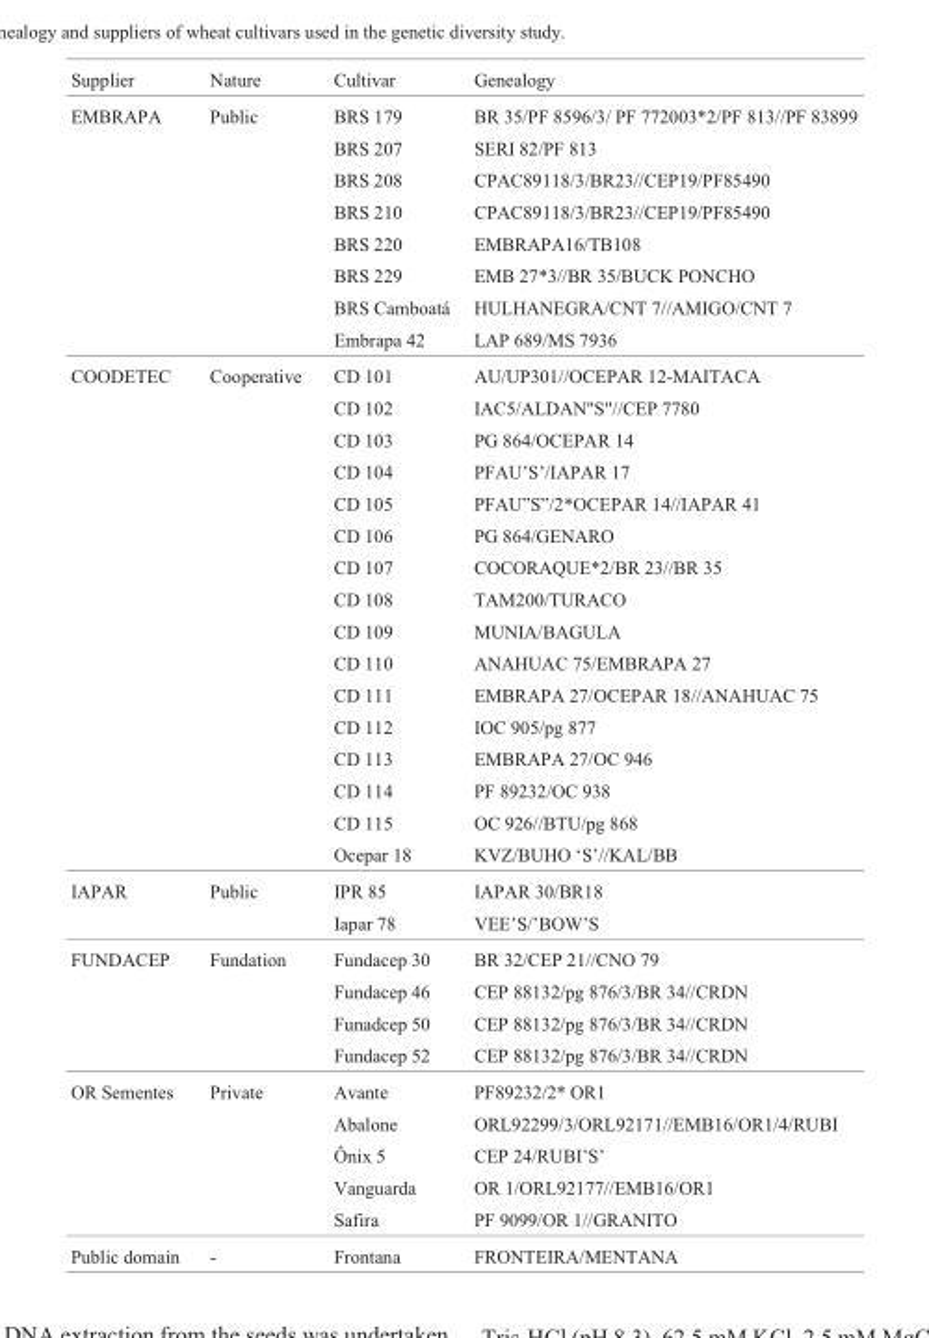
<table><thead><tr><td>Supplier</td><td>Nature</td><td>Cultivar</td><td>Genealogy</td></tr></thead><tbody><tr><td rowspan="8">EMBRAPA</td><td>Public</td><td>BRS 179</td><td>BR 35/PF 8596/3/ PF 772003*2/PF 813//PF 83899</td></tr><tr><td></td><td>BRS 207</td><td>SERI 82/PF 813</td></tr><tr><td></td><td>BRS 208</td><td>CPAC89118/3/BR23//CEP19/PF85490</td></tr><tr><td></td><td>BRS 210</td><td>CPAC89118/3/BR23//CEP19/PF85490</td></tr><tr><td></td><td>BRS 220</td><td>EMBRAPA16/TB108</td></tr><tr><td></td><td>BRS 229</td><td>EMB 27*3//BR 35/BUCK PONCHO</td></tr><tr><td></td><td>BRS Camboatá</td><td>HULHANEGRA/CNT 7//AMIGO/CNT 7</td></tr><tr><td></td><td>Embrapa 42</td><td>LAP 689/MS 7936</td></tr><tr><td rowspan="16">COODETEC</td><td>Cooperative</td><td>CD 101</td><td>AU/UP301//OCEPAR 12-MAITACA</td></tr><tr><td></td><td>CD 102</td><td>IAC5/ALDAN&quot;S&quot;//CEP 7780</td></tr><tr><td></td><td>CD 103</td><td>PG 864/OCEPAR 14</td></tr><tr><td></td><td>CD 104</td><td>PFAU’S’/IAPAR 17</td></tr><tr><td></td><td>CD 105</td><td>PFAU”S”/2*OCEPAR 14//IAPAR 41</td></tr><tr><td></td><td>CD 106</td><td>PG 864/GENARO</td></tr><tr><td></td><td>CD 107</td><td>COCORAQUE*2/BR 23//BR 35</td></tr><tr><td></td><td>CD 108</td><td>TAM200/TURACO</td></tr><tr><td></td><td>CD 109</td><td>MUNIA/BAGULA</td></tr><tr><td></td><td>CD 110</td><td>ANAHUAC 75/EMBRAPA 27</td></tr><tr><td></td><td>CD 111</td><td>EMBRAPA 27/OCEPAR 18//ANAHUAC 75</td></tr><tr><td></td><td>CD 112</td><td>IOC 905/pg 877</td></tr><tr><td></td><td>CD 113</td><td>EMBRAPA 27/OC 946</td></tr><tr><td></td><td>CD 114</td><td>PF 89232/OC 938</td></tr><tr><td></td><td>CD 115</td><td>OC 926//BTU/pg 868</td></tr><tr><td></td><td>Ocepar 18</td><td>KVZ/BUHO ‘S’//KAL/BB</td></tr><tr><td rowspan="2">IAPAR</td><td>Public</td><td>IPR 85</td><td>IAPAR 30/BR18</td></tr><tr><td></td><td>Iapar 78</td><td>VEE’S/’BOW’S</td></tr><tr><td rowspan="4">FUNDACEP</td><td>Fundation</td><td>Fundacep 30</td><td>BR 32/CEP 21//CNO 79</td></tr><tr><td></td><td>Fundacep 46</td><td>CEP 88132/pg 876/3/BR 34//CRDN</td></tr><tr><td></td><td>Funadcep 50</td><td>CEP 88132/pg 876/3/BR 34//CRDN</td></tr><tr><td></td><td>Fundacep 52</td><td>CEP 88132/pg 876/3/BR 34//CRDN</td></tr><tr><td rowspan="5">OR Sementes</td><td>Private</td><td>Avante</td><td>PF89232/2* OR1</td></tr><tr><td></td><td>Abalone</td><td>ORL92299/3/ORL92171//EMB16/OR1/4/RUBI</td></tr><tr><td></td><td>Ônix 5</td><td>CEP 24/RUBI’S’</td></tr><tr><td></td><td>Vanguarda</td><td>OR 1/ORL92177//EMB16/OR1</td></tr><tr><td></td><td>Safira</td><td>PF 9099/OR 1//GRANITO</td></tr><tr><td>Public domain</td><td>-</td><td>Frontana</td><td>FRONTEIRA/MENTANA</td></tr></tbody></table>